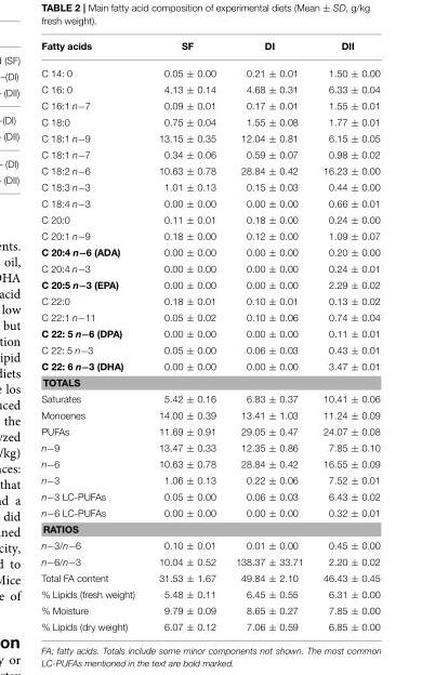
<table><thead><tr><td>Fatty acids</td><td>SF</td><td>DI</td><td>DII</td></tr></thead><tbody><tr><td>C 14: 0</td><td>0.05 ± 0.00</td><td>0.21 ± 0.01</td><td>1.50 ± 0.00</td></tr><tr><td>C 16: 0</td><td>4.13 ± 0.14</td><td>4.68 ± 0.31</td><td>6.33 ± 0.04</td></tr><tr><td>C 16:1 n−7</td><td>0.09 ± 0.01</td><td>0.17 ± 0.01</td><td>1.55 ± 0.01</td></tr><tr><td>C 18:0</td><td>0.75 ± 0.04</td><td>1.55 ± 0.08</td><td>1.77 ± 0.01</td></tr><tr><td>C 18:1 n−9</td><td>13.15 ± 0.35</td><td>12.04 ± 0.81</td><td>6.15 ± 0.05</td></tr><tr><td>C 18:1 n−7</td><td>0.34 ± 0.06</td><td>0.59 ± 0.07</td><td>0.98 ± 0.02</td></tr><tr><td>C 18:2 n−6</td><td>10.63 ± 0.78</td><td>28.84 ± 0.42</td><td>16.23 ± 0.00</td></tr><tr><td>C 18:3 n−3</td><td>1.01 ± 0.13</td><td>0.15 ± 0.03</td><td>0.44 ± 0.00</td></tr><tr><td>C 18:4 n−3</td><td>0.00 ± 0.00</td><td>0.00 ± 0.00</td><td>0.66 ± 0.01</td></tr><tr><td>C 20:0</td><td>0.11 ± 0.01</td><td>0.18 ± 0.00</td><td>0.24 ± 0.00</td></tr><tr><td>C 20:1 n−9</td><td>0.18 ± 0.00</td><td>0.12 ± 0.00</td><td>1.09 ± 0.07</td></tr><tr><td>C 20:4 n−6 (ADA)</td><td>0.00 ± 0.00</td><td>0.00 ± 0.00</td><td>0.20 ± 0.00</td></tr><tr><td>C 20:4 n−3</td><td>0.00 ± 0.00</td><td>0.00 ± 0.00</td><td>0.24 ± 0.01</td></tr><tr><td>C 20:5 n−3 (EPA)</td><td>0.00 ± 0.00</td><td>0.00 ± 0.00</td><td>2.29 ± 0.02</td></tr><tr><td>C 22:0</td><td>0.18 ± 0.01</td><td>0.10 ± 0.01</td><td>0.13 ± 0.02</td></tr><tr><td>C 22:1 n−11</td><td>0.05 ± 0.02</td><td>0.10 ± 0.06</td><td>0.74 ± 0.04</td></tr><tr><td>C 22: 5 n−6 (DPA)</td><td>0.00 ± 0.00</td><td>0.00 ± 0.00</td><td>0.11 ± 0.01</td></tr><tr><td>C 22: 5 n−3</td><td>0.05 ± 0.00</td><td>0.06 ± 0.03</td><td>0.43 ± 0.01</td></tr><tr><td>C 22: 6 n−3 (DHA)</td><td>0.00 ± 0.00</td><td>0.00 ± 0.00</td><td>3.47 ± 0.01</td></tr><tr><td colspan="4">TOTALS</td></tr><tr><td>Saturates</td><td>5.42 ± 0.16</td><td>6.83 ± 0.37</td><td>10.41 ± 0.06</td></tr><tr><td>Monoenes</td><td>14.00 ± 0.39</td><td>13.41 ± 1.03</td><td>11.24 ± 0.09</td></tr><tr><td>PUFAs</td><td>11.69 ± 0.91</td><td>29.05 ± 0.47</td><td>24.07 ± 0.08</td></tr><tr><td>n−9</td><td>13.47 ± 0.33</td><td>12.35 ± 0.86</td><td>7.85 ± 0.10</td></tr><tr><td>n−6</td><td>10.63 ± 0.78</td><td>28.84 ± 0.42</td><td>16.55 ± 0.09</td></tr><tr><td>n−3</td><td>1.06 ± 0.13</td><td>0.22 ± 0.06</td><td>7.52 ± 0.01</td></tr><tr><td>n−3 LC-PUFAs</td><td>0.05 ± 0.00</td><td>0.06 ± 0.03</td><td>6.43 ± 0.02</td></tr><tr><td>n−6 LC-PUFAs</td><td>0.00 ± 0.00</td><td>0.00 ± 0.00</td><td>0.32 ± 0.01</td></tr><tr><td colspan="4">RATIOS</td></tr><tr><td>n−3/n−6</td><td>0.10 ± 0.01</td><td>0.01 ± 0.00</td><td>0.45 ± 0.00</td></tr><tr><td>n−6/n−3</td><td>10.04 ± 0.52</td><td>138.37 ± 33.71</td><td>2.20 ± 0.02</td></tr><tr><td>Total FA content</td><td>31.53 ± 1.67</td><td>49.84 ± 2.10</td><td>46.43 ± 0.45</td></tr><tr><td>% Lipids (fresh weight)</td><td>5.48 ± 0.11</td><td>6.45 ± 0.55</td><td>6.31 ± 0.00</td></tr><tr><td>% Moisture</td><td>9.79 ± 0.09</td><td>8.65 ± 0.27</td><td>7.85 ± 0.00</td></tr><tr><td>% Lipids (dry weight)</td><td>6.07 ± 0.12</td><td>7.06 ± 0.59</td><td>6.85 ± 0.00</td></tr></tbody></table>